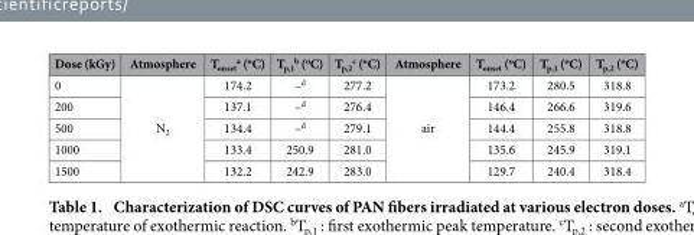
<table><thead><tr><td>Dose (kGy)</td><td>Atmosphere</td><td>T<sub>onset</sub> <sup>a</sup> (<sup>o</sup>C)</td><td>T<sub>p,1</sub> <sup>b</sup> (<sup>o</sup>C)</td><td>T<sub>p,2</sub> <sup>c</sup> (<sup>o</sup>C)</td><td>Atmosphere</td><td>T<sub>onset</sub> (<sup>o</sup>C)</td><td>T<sub>p,1</sub> (<sup>o</sup>C)</td><td>T<sub>p,2</sub> (<sup>o</sup>C)</td></tr></thead><tbody><tr><td>0</td><td rowspan="5">N<sub>2</sub></td><td>174.2</td><td>–<sup>d</sup></td><td>277.2</td><td rowspan="5">air</td><td>173.2</td><td>280.5</td><td>318.8</td></tr><tr><td>200</td><td>137.1</td><td>–<sup>d</sup></td><td>276.4</td><td>146.4</td><td>266.6</td><td>319.6</td></tr><tr><td>500</td><td>134.4</td><td>–<sup>d</sup></td><td>279.1</td><td>144.4</td><td>255.8</td><td>318.8</td></tr><tr><td>1000</td><td>133.4</td><td>250.9</td><td>281.0</td><td>135.6</td><td>245.9</td><td>319.1</td></tr><tr><td>1500</td><td>132.2</td><td>242.9</td><td>283.0</td><td>129.7</td><td>240.4</td><td>318.4</td></tr></tbody></table>